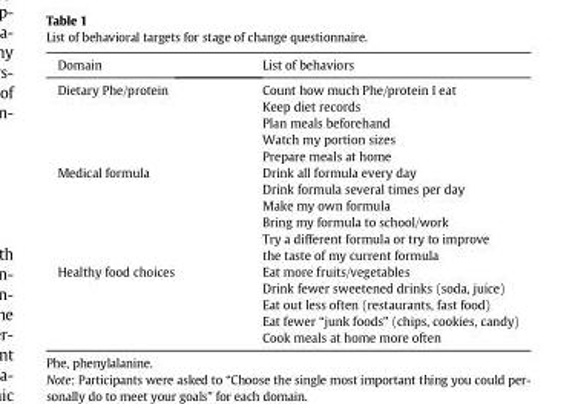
<table><thead><tr><td>Domain</td><td>List of behaviors</td></tr></thead><tbody><tr><td>Dietary Phe/protein</td><td>Count how much Phe/protein I eat Keep diet records Plan meals beforehand Watch my portion sizes Prepare meals at home</td></tr><tr><td>Medical formula</td><td>Drink all formula every day Drink formula several times per day Make my own formula Bring my formula to school/work Try a different formula or try to improve the taste of my current formula</td></tr><tr><td>Healthy food choices</td><td>Eat more fruits/vegetables Drink fewer sweetened drinks (soda, juice) Eat out less often (restaurants, fast food) Eat fewer “junk foods” (chips, cookies, candy) Cook meals at home more often</td></tr></tbody></table>